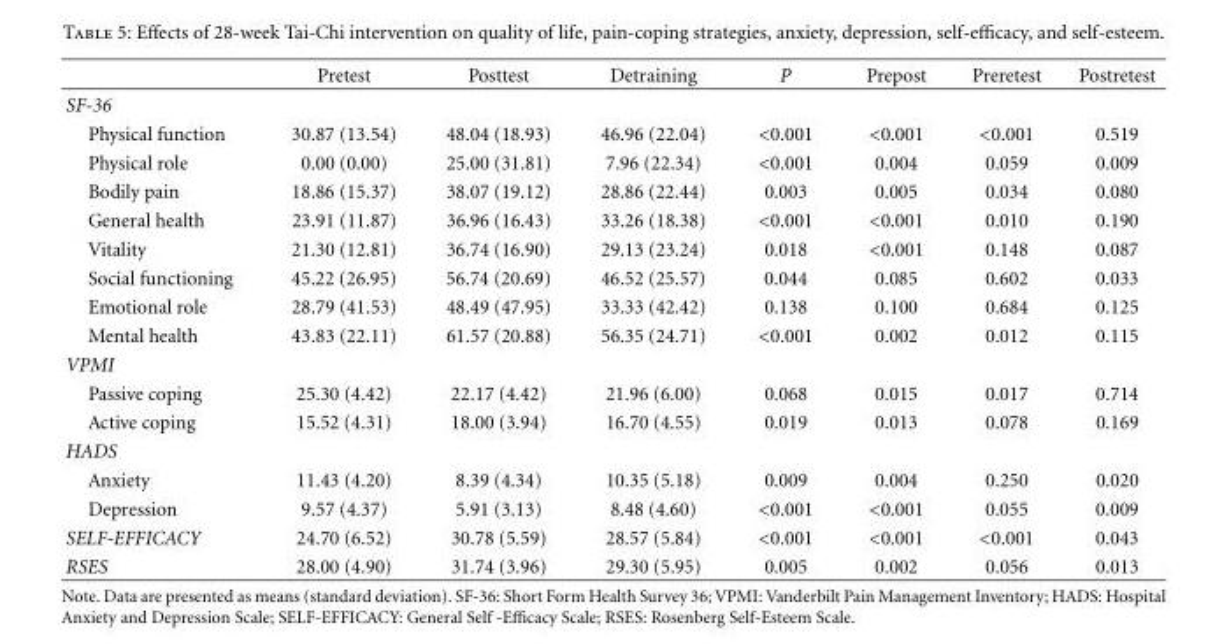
<table><thead><tr><td></td><td>Pretest</td><td>Posttest</td><td>Detraining</td><td>P</td><td>Prepost</td><td>Preretest</td><td>Postretest</td></tr></thead><tbody><tr><td colspan="8">SF-36</td></tr><tr><td>Physical function</td><td>30.87 (13.54)</td><td>48.04 (18.93)</td><td>46.96 (22.04)</td><td>&lt;0.001</td><td>&lt;0.001</td><td>&lt;0.001</td><td>0.519</td></tr><tr><td>Physical role</td><td>0.00 (0.00)</td><td>25.00 (31.81)</td><td>7.96 (22.34)</td><td>&lt;0.001</td><td>0.004</td><td>0.059</td><td>0.009</td></tr><tr><td>Bodily pain</td><td>18.86 (15.37)</td><td>38.07 (19.12)</td><td>28.86 (22.44)</td><td>0.003</td><td>0.005</td><td>0.034</td><td>0.080</td></tr><tr><td>General health</td><td>23.91 (11.87)</td><td>36.96 (16.43)</td><td>33.26 (18.38)</td><td>&lt;0.001</td><td>&lt;0.001</td><td>0.010</td><td>0.190</td></tr><tr><td>Vitality</td><td>21.30 (12.81)</td><td>36.74 (16.90)</td><td>29.13 (23.24)</td><td>0.018</td><td>&lt;0.001</td><td>0.148</td><td>0.087</td></tr><tr><td>Social functioning</td><td>45.22 (26.95)</td><td>56.74 (20.69)</td><td>46.52 (25.57)</td><td>0.044</td><td>0.085</td><td>0.602</td><td>0.033</td></tr><tr><td>Emotional role</td><td>28.79 (41.53)</td><td>48.49 (47.95)</td><td>33.33 (42.42)</td><td>0.138</td><td>0.100</td><td>0.684</td><td>0.125</td></tr><tr><td>Mental health</td><td>43.83 (22.11)</td><td>61.57 (20.88)</td><td>56.35 (24.71)</td><td>&lt;0.001</td><td>0.002</td><td>0.012</td><td>0.115</td></tr><tr><td colspan="8">VPMI</td></tr><tr><td>Passive coping</td><td>25.30 (4.42)</td><td>22.17 (4.42)</td><td>21.96 (6.00)</td><td>0.068</td><td>0.015</td><td>0.017</td><td>0.714</td></tr><tr><td>Active coping</td><td>15.52 (4.31)</td><td>18.00 (3.94)</td><td>16.70 (4.55)</td><td>0.019</td><td>0.013</td><td>0.078</td><td>0.169</td></tr><tr><td colspan="8">HADS</td></tr><tr><td>Anxiety</td><td>11.43 (4.20)</td><td>8.39 (4.34)</td><td>10.35 (5.18)</td><td>0.009</td><td>0.004</td><td>0.250</td><td>0.020</td></tr><tr><td>Depression</td><td>9.57 (4.37)</td><td>5.91 (3.13)</td><td>8.48 (4.60)</td><td>&lt;0.001</td><td>&lt;0.001</td><td>0.055</td><td>0.009</td></tr><tr><td>SELF-EFFICACY</td><td>24.70 (6.52)</td><td>30.78 (5.59)</td><td>28.57 (5.84)</td><td>&lt;0.001</td><td>&lt;0.001</td><td>&lt;0.001</td><td>0.043</td></tr><tr><td>RSES</td><td>28.00 (4.90)</td><td>31.74 (3.96)</td><td>29.30 (5.95)</td><td>0.005</td><td>0.002</td><td>0.056</td><td>0.013</td></tr></tbody></table>